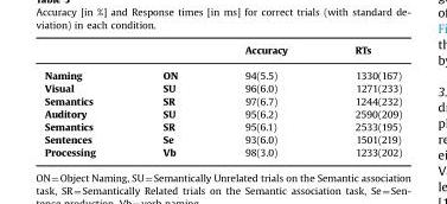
<table><thead><tr><td></td><td></td><td>Accuracy</td><td>RTs</td></tr></thead><tbody><tr><td>Naming</td><td>ON</td><td>94(5.5)</td><td>1330(167)</td></tr><tr><td>Visual</td><td>SU</td><td>96(6.0)</td><td>1271(233)</td></tr><tr><td>Semantics</td><td>SR</td><td>97(6.7)</td><td>1244(232)</td></tr><tr><td>Auditory</td><td>SU</td><td>95(6.2)</td><td>2590(209)</td></tr><tr><td>Semantics</td><td>SR</td><td>95(6.1)</td><td>2533(195)</td></tr><tr><td>Sentences</td><td>Se</td><td>93(6.0)</td><td>1501(219)</td></tr><tr><td>Processing</td><td>Vb</td><td>98(3.0)</td><td>1233(202)</td></tr></tbody></table>